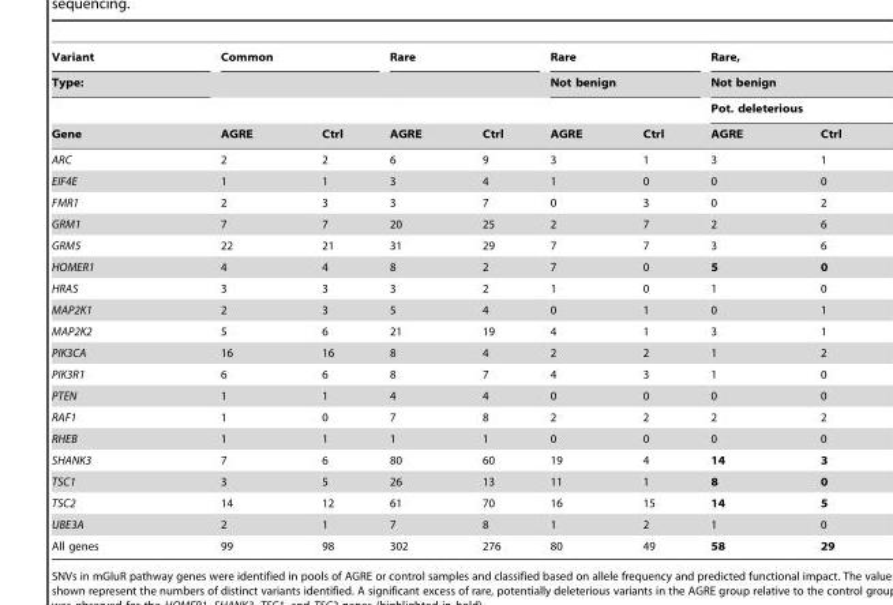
<table><thead><tr><td rowspan="4">Variant Type: Gene</td><td colspan="2">Common</td><td colspan="2">Rare</td><td rowspan="2" colspan="2">Rare Not benign</td><td rowspan="3" colspan="2">Rare, Not benign Pot. deleterious</td></tr><tr><td rowspan="3">AGRE</td><td rowspan="3">Ctrl</td><td rowspan="3">AGRE</td><td rowspan="3">Ctrl</td></tr><tr><td rowspan="2">AGRE</td><td rowspan="2">Ctrl</td></tr><tr><td>AGRE</td><td>Ctrl</td></tr></thead><tbody><tr><td>ARC</td><td>2</td><td>2</td><td>6</td><td>9</td><td>3</td><td>1</td><td>3</td><td>1</td></tr><tr><td>EIF4E</td><td>1</td><td>1</td><td>3</td><td>4</td><td>1</td><td>0</td><td>0</td><td>0</td></tr><tr><td>FMR1</td><td>2</td><td>3</td><td>3</td><td>7</td><td>0</td><td>3</td><td>0</td><td>2</td></tr><tr><td>GRM1</td><td>7</td><td>7</td><td>20</td><td>25</td><td>2</td><td>7</td><td>2</td><td>6</td></tr><tr><td>GRM5</td><td>22</td><td>21</td><td>31</td><td>29</td><td>7</td><td>7</td><td>3</td><td>6</td></tr><tr><td>HOMER1</td><td>4</td><td>4</td><td>8</td><td>2</td><td>7</td><td>0</td><td>5</td><td>0</td></tr><tr><td>HRAS</td><td>3</td><td>3</td><td>3</td><td>2</td><td>1</td><td>0</td><td>1</td><td>0</td></tr><tr><td>MAP2K1</td><td>2</td><td>3</td><td>5</td><td>4</td><td>0</td><td>1</td><td>0</td><td>1</td></tr><tr><td>MAP2K2</td><td>5</td><td>6</td><td>21</td><td>19</td><td>4</td><td>1</td><td>3</td><td>1</td></tr><tr><td>PIK3CA</td><td>16</td><td>16</td><td>8</td><td>4</td><td>2</td><td>2</td><td>1</td><td>2</td></tr><tr><td>PIK3R1</td><td>6</td><td>6</td><td>8</td><td>7</td><td>4</td><td>3</td><td>1</td><td>0</td></tr><tr><td>PTEN</td><td>1</td><td>1</td><td>4</td><td>4</td><td>0</td><td>0</td><td>0</td><td>0</td></tr><tr><td>RAF1</td><td>1</td><td>0</td><td>7</td><td>8</td><td>2</td><td>2</td><td>2</td><td>2</td></tr><tr><td>RHEB</td><td>1</td><td>1</td><td>1</td><td>1</td><td>0</td><td>0</td><td>0</td><td>0</td></tr><tr><td>SHANK3</td><td>7</td><td>6</td><td>80</td><td>60</td><td>19</td><td>4</td><td>14</td><td>3</td></tr><tr><td>TSC1</td><td>3</td><td>5</td><td>26</td><td>13</td><td>11</td><td>1</td><td>8</td><td>0</td></tr><tr><td>TSC2</td><td>14</td><td>12</td><td>61</td><td>70</td><td>16</td><td>15</td><td>14</td><td>5</td></tr><tr><td>UBE3A</td><td>2</td><td>1</td><td>7</td><td>8</td><td>1</td><td>2</td><td>1</td><td>0</td></tr><tr><td>All genes</td><td>99</td><td>98</td><td>302</td><td>276</td><td>80</td><td>49</td><td>58</td><td>29</td></tr></tbody></table>